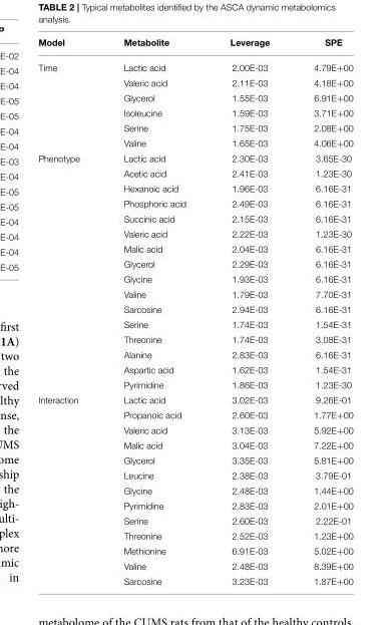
<table><thead><tr><td>Model</td><td>Metabolite</td><td>Leverage</td><td>SPE</td></tr></thead><tbody><tr><td rowspan="6">Time</td><td>Lactic acid</td><td>2.00E-03</td><td>4.79E+00</td></tr><tr><td>Valeric acid</td><td>2.11E-03</td><td>4.18E+00</td></tr><tr><td>Glycerol</td><td>1.55E-03</td><td>6.91E+00</td></tr><tr><td>Isoleucine</td><td>1.59E-03</td><td>3.71E+00</td></tr><tr><td>Serine</td><td>1.75E-03</td><td>2.08E+00</td></tr><tr><td>Valine</td><td>1.65E-03</td><td>4.06E+00</td></tr><tr><td rowspan="16">Phenotype</td><td>Lactic acid</td><td>2.30E-03</td><td>3.65E-30</td></tr><tr><td>Acetic acid</td><td>2.41E-03</td><td>1.23E-30</td></tr><tr><td>Hexanoic acid</td><td>1.96E-03</td><td>6.16E-31</td></tr><tr><td>Phosphoric acid</td><td>2.49E-03</td><td>6.16E-31</td></tr><tr><td>Succinic acid</td><td>2.15E-03</td><td>6.16E-31</td></tr><tr><td>Valeric acid</td><td>2.22E-03</td><td>1.23E-30</td></tr><tr><td>Malic acid</td><td>2.04E-03</td><td>6.16E-31</td></tr><tr><td>Glycerol</td><td>2.29E-03</td><td>6.16E-31</td></tr><tr><td>Glycine</td><td>1.93E-03</td><td>6.16E-31</td></tr><tr><td>Valine</td><td>1.79E-03</td><td>7.70E-31</td></tr><tr><td>Sarcosine</td><td>2.94E-03</td><td>6.16E-31</td></tr><tr><td>Serine</td><td>1.74E-03</td><td>1.54E-31</td></tr><tr><td>Threonine</td><td>1.74E-03</td><td>3.08E-31</td></tr><tr><td>Alanine</td><td>2.83E-03</td><td>6.16E-31</td></tr><tr><td>Aspartic acid</td><td>1.62E-03</td><td>1.54E-31</td></tr><tr><td>Pyrimidine</td><td>1.86E-03</td><td>1.23E-30</td></tr><tr><td rowspan="13">Interaction</td><td>Lactic acid</td><td>3.02E-03</td><td>9.26E-01</td></tr><tr><td>Propanoic acid</td><td>2.60E-03</td><td>1.77E+00</td></tr><tr><td>Valeric acid</td><td>3.13E-03</td><td>5.92E+00</td></tr><tr><td>Malic acid</td><td>3.04E-03</td><td>7.22E+00</td></tr><tr><td>Glycerol</td><td>3.35E-03</td><td>5.81E+00</td></tr><tr><td>Leucine</td><td>2.38E-03</td><td>3.79E-01</td></tr><tr><td>Glycine</td><td>2.48E-03</td><td>1.44E+00</td></tr><tr><td>Pyrimidine</td><td>2.83E-03</td><td>2.01E+00</td></tr><tr><td>Serine</td><td>2.60E-03</td><td>2.22E-01</td></tr><tr><td>Threonine</td><td>2.52E-03</td><td>1.23E+00</td></tr><tr><td>Methionine</td><td>6.91E-03</td><td>5.02E+00</td></tr><tr><td>Valine</td><td>2.48E-03</td><td>8.39E+00</td></tr><tr><td>Sarcosine</td><td>3.23E-03</td><td>1.87E+00</td></tr></tbody></table>